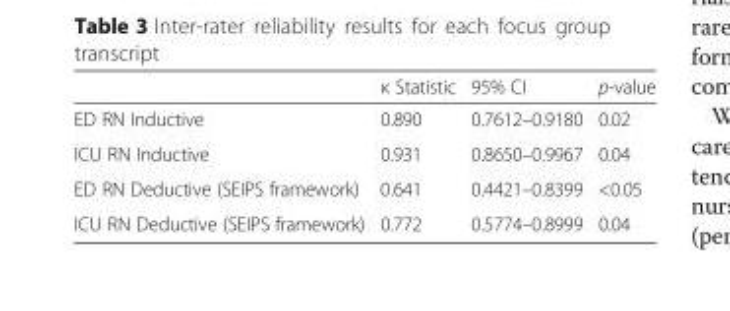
<table><thead><tr><td></td><td>κ Statistic</td><td>95% CI</td><td>p-value</td></tr></thead><tbody><tr><td>ED RN Inductive</td><td>0.890</td><td>0.7612–0.9180</td><td>0.02</td></tr><tr><td>ICU RN Inductive</td><td>0.931</td><td>0.8650–0.9967</td><td>0.04</td></tr><tr><td>ED RN Deductive (SEIPS framework)</td><td>0.641</td><td>0.4421–0.8399</td><td>&lt;0.05</td></tr><tr><td>ICU RN Deductive (SEIPS framework)</td><td>0.772</td><td>0.5774–0.8999</td><td>0.04</td></tr></tbody></table>